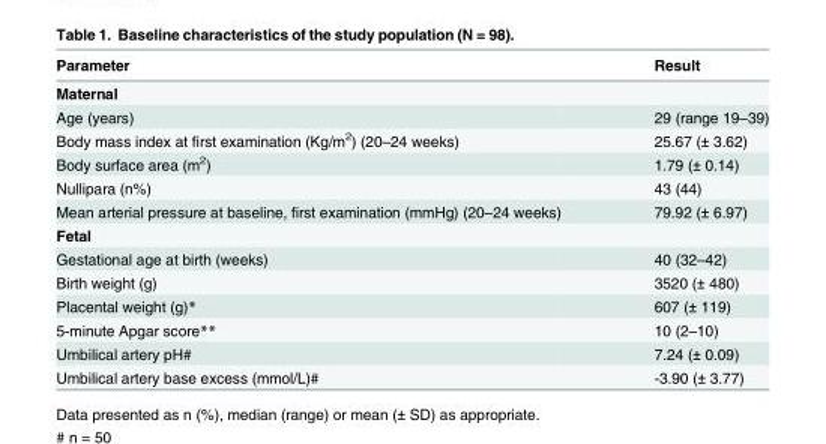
<table><thead><tr><td>Parameter</td><td>Result</td></tr></thead><tbody><tr><td colspan="2">Maternal</td></tr><tr><td>Age (years)</td><td>29 (range 19–39)</td></tr><tr><td>Body mass index at first examination (Kg/m<sup>2</sup>) (20–24 weeks)</td><td>25.67 (± 3.62)</td></tr><tr><td>Body surface area (m<sup>2</sup>)</td><td>1.79 (± 0.14)</td></tr><tr><td>Nullipara (n%)</td><td>43 (44)</td></tr><tr><td>Mean arterial pressure at baseline, first examination (mmHg) (20–24 weeks)</td><td>79.92 (± 6.97)</td></tr><tr><td colspan="2">Fetal</td></tr><tr><td>Gestational age at birth (weeks)</td><td>40 (32–42)</td></tr><tr><td>Birth weight (g)</td><td>3520 (± 480)</td></tr><tr><td>Placental weight (g)*</td><td>607 (± 119)</td></tr><tr><td>5-minute Apgar score**</td><td>10 (2–10)</td></tr><tr><td>Umbilical artery pH#</td><td>7.24 (± 0.09)</td></tr><tr><td>Umbilical artery base excess (mmol/L)#</td><td>-3.90 (± 3.77)</td></tr></tbody></table>